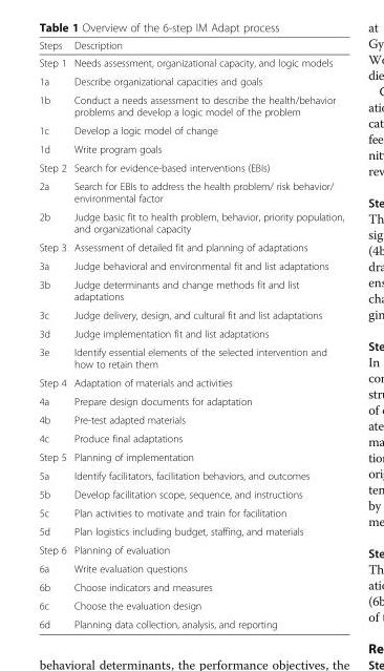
<table><thead><tr><td>Steps</td><td>Description</td></tr></thead><tbody><tr><td>Step 1</td><td>Needs assessment, organizational capacity, and logic models</td></tr><tr><td>1a</td><td>Describe organizational capacities and goals</td></tr><tr><td>1b</td><td>Conduct a needs assessment to describe the health/behavior problems and develop a logic model of the problem</td></tr><tr><td>1c</td><td>Develop a logic model of change</td></tr><tr><td>1d</td><td>Write program goals</td></tr><tr><td>Step 2</td><td>Search for evidence-based interventions (EBIs)</td></tr><tr><td>2a</td><td>Search for EBIs to address the health problem/ risk behavior/ environmental factor</td></tr><tr><td>2b</td><td>Judge basic fit to health problem, behavior, priority population, and organizational capacity</td></tr><tr><td>Step 3</td><td>Assessment of detailed fit and planning of adaptations</td></tr><tr><td>3a</td><td>Judge behavioral and environmental fit and list adaptations</td></tr><tr><td>3b</td><td>Judge determinants and change methods fit and list adaptations</td></tr><tr><td>3c</td><td>Judge delivery, design, and cultural fit and list adaptations</td></tr><tr><td>3d</td><td>Judge implementation fit and list adaptations</td></tr><tr><td>3e</td><td>Identify essential elements of the selected intervention and how to retain them</td></tr><tr><td>Step 4</td><td>Adaptation of materials and activities</td></tr><tr><td>4a</td><td>Prepare design documents for adaptation</td></tr><tr><td>4b</td><td>Pre-test adapted materials</td></tr><tr><td>4c</td><td>Produce final adaptations</td></tr><tr><td>Step 5</td><td>Planning of implementation</td></tr><tr><td>5a</td><td>Identify facilitators, facilitation behaviors, and outcomes</td></tr><tr><td>5b</td><td>Develop facilitation scope, sequence, and instructions</td></tr><tr><td>5c</td><td>Plan activities to motivate and train for facilitation</td></tr><tr><td>5d</td><td>Plan logistics including budget, staffing, and materials</td></tr><tr><td>Step 6</td><td>Planning of evaluation</td></tr><tr><td>6a</td><td>Write evaluation questions</td></tr><tr><td>6b</td><td>Choose indicators and measures</td></tr><tr><td>6c</td><td>Choose the evaluation design</td></tr><tr><td>6d</td><td>Planning data collection, analysis, and reporting</td></tr></tbody></table>